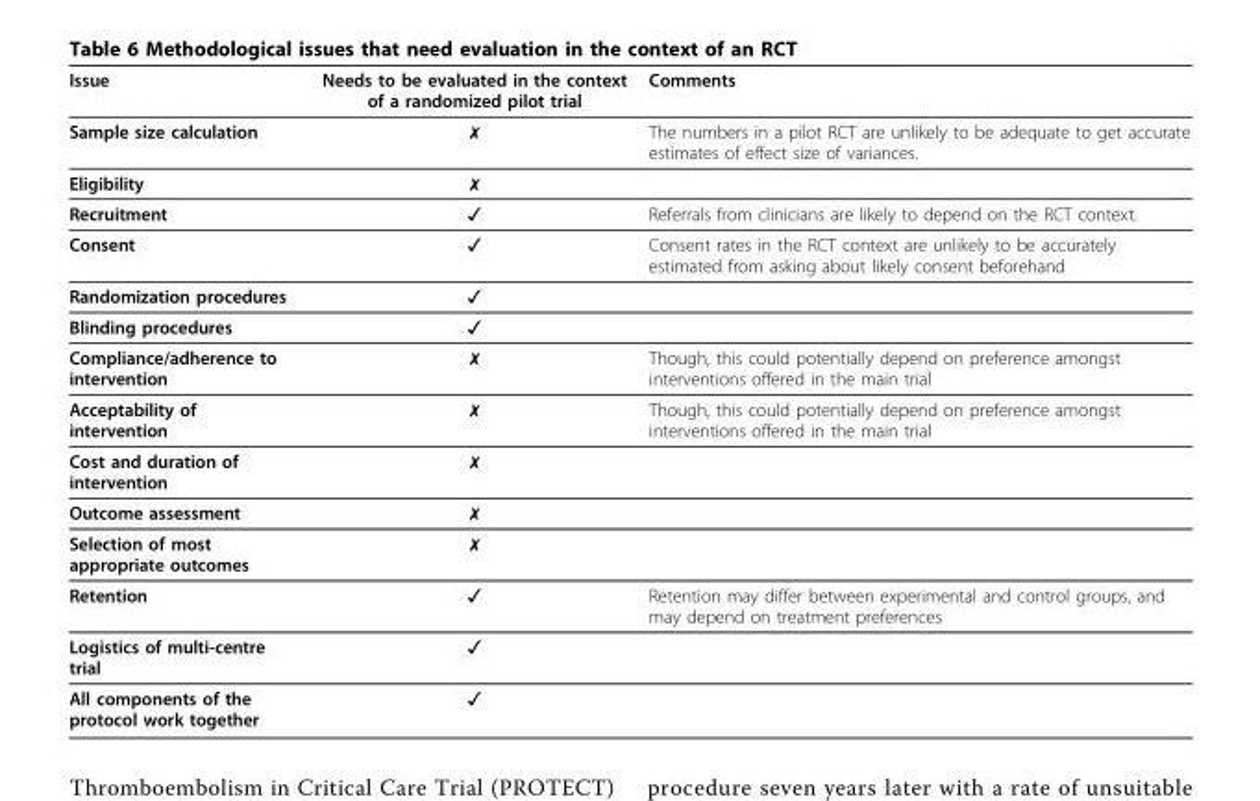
<table><thead><tr><td>Issue</td><td>Needs to be evaluated in the context of a randomized pilot trial</td><td>Comments</td></tr></thead><tbody><tr><td>Sample size calculation</td><td>✗</td><td>The numbers in a pilot RCT are unlikely to be adequate to get accurate estimates of effect size of variances.</td></tr><tr><td>Eligibility</td><td>✗</td><td></td></tr><tr><td>Recruitment</td><td>✓</td><td>Referrals from clinicians are likely to depend on the RCT context.</td></tr><tr><td>Consent</td><td>✓</td><td>Consent rates in the RCT context are unlikely to be accurately estimated from asking about likely consent beforehand</td></tr><tr><td>Randomization procedures</td><td>✓</td><td></td></tr><tr><td>Blinding procedures</td><td>✓</td><td></td></tr><tr><td>Compliance/adherence to intervention</td><td>✗</td><td>Though, this could potentially depend on preference amongst interventions offered in the main trial</td></tr><tr><td>Acceptability of intervention</td><td>✗</td><td>Though, this could potentially depend on preference amongst interventions offered in the main trial</td></tr><tr><td>Cost and duration of intervention</td><td>✗</td><td></td></tr><tr><td>Outcome assessment</td><td>✗</td><td></td></tr><tr><td>Selection of most appropriate outcomes</td><td>✗</td><td></td></tr><tr><td>Retention</td><td>✓</td><td>Retention may differ between experimental and control groups, and may depend on treatment preferences</td></tr><tr><td>Logistics of multi-centre trial</td><td>✓</td><td></td></tr><tr><td>All components of the protocol work together</td><td>✓</td><td></td></tr></tbody></table>